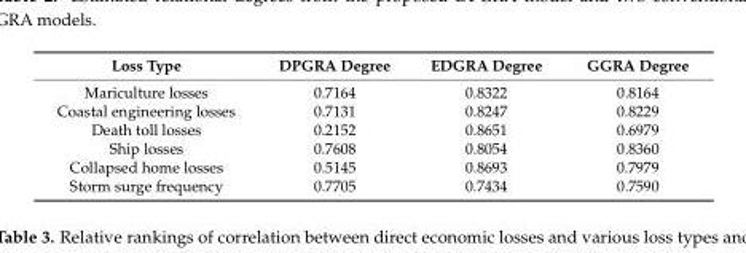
<table><thead><tr><td>Loss Type</td><td>DPGRA Degree</td><td>EDGRA Degree</td><td>GGRA Degree</td></tr></thead><tbody><tr><td>Mariculture losses</td><td>0.7164</td><td>0.8322</td><td>0.8164</td></tr><tr><td>Coastal engineering losses</td><td>0.7131</td><td>0.8247</td><td>0.8229</td></tr><tr><td>Death toll losses</td><td>0.2152</td><td>0.8651</td><td>0.6979</td></tr><tr><td>Ship losses</td><td>0.7608</td><td>0.8054</td><td>0.8360</td></tr><tr><td>Collapsed home losses</td><td>0.5145</td><td>0.8693</td><td>0.7979</td></tr><tr><td>Storm surge frequency</td><td>0.7705</td><td>0.7434</td><td>0.7590</td></tr></tbody></table>